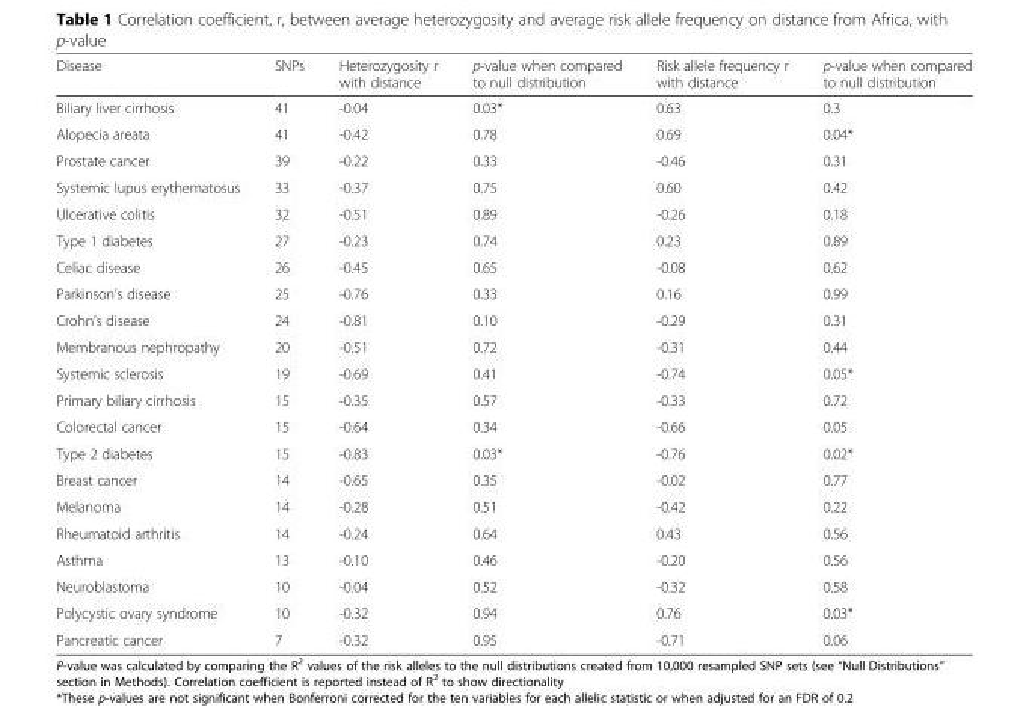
<table><thead><tr><td>Disease</td><td>SNPs</td><td>Heterozygosity r with distance</td><td>p-value when compared to null distribution</td><td>Risk allele frequency r with distance</td><td>p-value when compared to null distribution</td></tr></thead><tbody><tr><td>Biliary liver cirrhosis</td><td>41</td><td>-0.04</td><td>0.03*</td><td>0.63</td><td>0.3</td></tr><tr><td>Alopecia areata</td><td>41</td><td>-0.42</td><td>0.78</td><td>0.69</td><td>0.04*</td></tr><tr><td>Prostate cancer</td><td>39</td><td>-0.22</td><td>0.33</td><td>-0.46</td><td>0.31</td></tr><tr><td>Systemic lupus erythematosus</td><td>33</td><td>-0.37</td><td>0.75</td><td>0.60</td><td>0.42</td></tr><tr><td>Ulcerative colitis</td><td>32</td><td>-0.51</td><td>0.89</td><td>-0.26</td><td>0.18</td></tr><tr><td>Type 1 diabetes</td><td>27</td><td>-0.23</td><td>0.74</td><td>0.23</td><td>0.89</td></tr><tr><td>Celiac disease</td><td>26</td><td>-0.45</td><td>0.65</td><td>-0.08</td><td>0.62</td></tr><tr><td>Parkinson’s disease</td><td>25</td><td>-0.76</td><td>0.33</td><td>0.16</td><td>0.99</td></tr><tr><td>Crohn’s disease</td><td>24</td><td>-0.81</td><td>0.10</td><td>-0.29</td><td>0.31</td></tr><tr><td>Membranous nephropathy</td><td>20</td><td>-0.51</td><td>0.72</td><td>-0.31</td><td>0.44</td></tr><tr><td>Systemic sclerosis</td><td>19</td><td>-0.69</td><td>0.41</td><td>-0.74</td><td>0.05*</td></tr><tr><td>Primary biliary cirrhosis</td><td>15</td><td>-0.35</td><td>0.57</td><td>-0.33</td><td>0.72</td></tr><tr><td>Colorectal cancer</td><td>15</td><td>-0.64</td><td>0.34</td><td>-0.66</td><td>0.05</td></tr><tr><td>Type 2 diabetes</td><td>15</td><td>-0.83</td><td>0.03*</td><td>-0.76</td><td>0.02*</td></tr><tr><td>Breast cancer</td><td>14</td><td>-0.65</td><td>0.35</td><td>-0.02</td><td>0.77</td></tr><tr><td>Melanoma</td><td>14</td><td>-0.28</td><td>0.51</td><td>-0.42</td><td>0.22</td></tr><tr><td>Rheumatoid arthritis</td><td>14</td><td>-0.24</td><td>0.64</td><td>0.43</td><td>0.56</td></tr><tr><td>Asthma</td><td>13</td><td>-0.10</td><td>0.46</td><td>-0.20</td><td>0.56</td></tr><tr><td>Neuroblastoma</td><td>10</td><td>-0.04</td><td>0.52</td><td>-0.32</td><td>0.58</td></tr><tr><td>Polycystic ovary syndrome</td><td>10</td><td>-0.32</td><td>0.94</td><td>0.76</td><td>0.03*</td></tr><tr><td>Pancreatic cancer</td><td>7</td><td>-0.32</td><td>0.95</td><td>-0.71</td><td>0.06</td></tr></tbody></table>